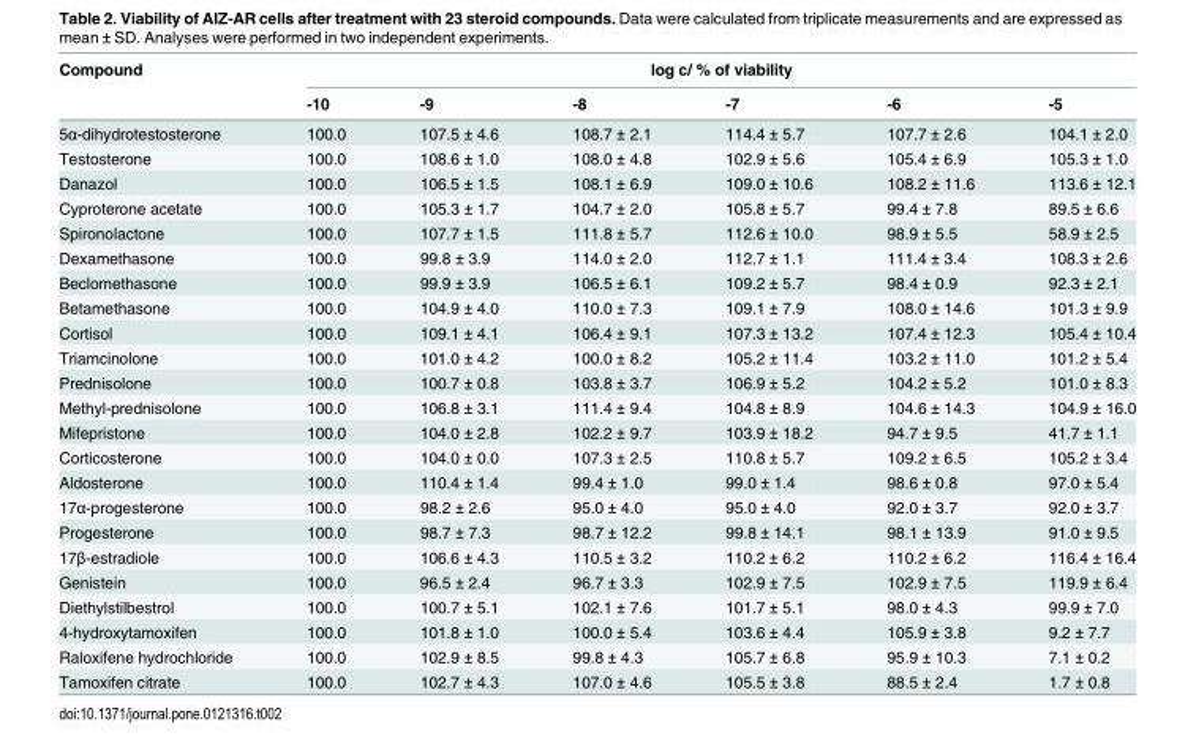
<table><thead><tr><td rowspan="2">Compound</td><td colspan="6">log c/ % of viability</td></tr><tr><td>-10</td><td>-9</td><td>-8</td><td>-7</td><td>-6</td><td>-5</td></tr></thead><tbody><tr><td>5α-dihydrotestosterone</td><td>100.0</td><td>107.5 ± 4.6</td><td>108.7 ± 2.1</td><td>114.4 ± 5.7</td><td>107.7 ± 2.6</td><td>104.1 ± 2.0</td></tr><tr><td>Testosterone</td><td>100.0</td><td>108.6 ± 1.0</td><td>108.0 ± 4.8</td><td>102.9 ± 5.6</td><td>105.4 ± 6.9</td><td>105.3 ± 1.0</td></tr><tr><td>Danazol</td><td>100.0</td><td>106.5 ± 1.5</td><td>108.1 ± 6.9</td><td>109.0 ± 10.6</td><td>108.2 ± 11.6</td><td>113.6 ± 12.1</td></tr><tr><td>Cyproterone acetate</td><td>100.0</td><td>105.3 ± 1.7</td><td>104.7 ± 2.0</td><td>105.8 ± 5.7</td><td>99.4 ± 7.8</td><td>89.5 ± 6.6</td></tr><tr><td>Spironolactone</td><td>100.0</td><td>107.7 ± 1.5</td><td>111.8 ± 5.7</td><td>112.6 ± 10.0</td><td>98.9 ± 5.5</td><td>58.9 ± 2.5</td></tr><tr><td>Dexamethasone</td><td>100.0</td><td>99.8 ± 3.9</td><td>114.0 ± 2.0</td><td>112.7 ± 1.1</td><td>111.4 ± 3.4</td><td>108.3 ± 2.6</td></tr><tr><td>Beclomethasone</td><td>100.0</td><td>99.9 ± 3.9</td><td>106.5 ± 6.1</td><td>109.2 ± 5.7</td><td>98.4 ± 0.9</td><td>92.3 ± 2.1</td></tr><tr><td>Betamethasone</td><td>100.0</td><td>104.9 ± 4.0</td><td>110.0 ± 7.3</td><td>109.1 ± 7.9</td><td>108.0 ± 14.6</td><td>101.3 ± 9.9</td></tr><tr><td>Cortisol</td><td>100.0</td><td>109.1 ± 4.1</td><td>106.4 ± 9.1</td><td>107.3 ± 13.2</td><td>107.4 ± 12.3</td><td>105.4 ± 10.4</td></tr><tr><td>Triamcinolone</td><td>100.0</td><td>101.0 ± 4.2</td><td>100.0 ± 8.2</td><td>105.2 ± 11.4</td><td>103.2 ± 11.0</td><td>101.2 ± 5.4</td></tr><tr><td>Prednisolone</td><td>100.0</td><td>100.7 ± 0.8</td><td>103.8 ± 3.7</td><td>106.9 ± 5.2</td><td>104.2 ± 5.2</td><td>101.0 ± 8.3</td></tr><tr><td>Methyl-prednisolone</td><td>100.0</td><td>106.8 ± 3.1</td><td>111.4 ± 9.4</td><td>104.8 ± 8.9</td><td>104.6 ± 14.3</td><td>104.9 ± 16.0</td></tr><tr><td>Mifepristone</td><td>100.0</td><td>104.0 ± 2.8</td><td>102.2 ± 9.7</td><td>103.9 ± 18.2</td><td>94.7 ± 9.5</td><td>41.7 ± 1.1</td></tr><tr><td>Corticosterone</td><td>100.0</td><td>104.0 ± 0.0</td><td>107.3 ± 2.5</td><td>110.8 ± 5.7</td><td>109.2 ± 6.5</td><td>105.2 ± 3.4</td></tr><tr><td>Aldosterone</td><td>100.0</td><td>110.4 ± 1.4</td><td>99.4 ± 1.0</td><td>99.0 ± 1.4</td><td>98.6 ± 0.8</td><td>97.0 ± 5.4</td></tr><tr><td>17α-progesterone</td><td>100.0</td><td>98.2 ± 2.6</td><td>95.0 ± 4.0</td><td>95.0 ± 4.0</td><td>92.0 ± 3.7</td><td>92.0 ± 3.7</td></tr><tr><td>Progesterone</td><td>100.0</td><td>98.7 ± 7.3</td><td>98.7 ± 12.2</td><td>99.8 ± 14.1</td><td>98.1 ± 13.9</td><td>91.0 ± 9.5</td></tr><tr><td>17β-estradiole</td><td>100.0</td><td>106.6 ± 4.3</td><td>110.5 ± 3.2</td><td>110.2 ± 6.2</td><td>110.2 ± 6.2</td><td>116.4 ± 16.4</td></tr><tr><td>Genistein</td><td>100.0</td><td>96.5 ± 2.4</td><td>96.7 ± 3.3</td><td>102.9 ± 7.5</td><td>102.9 ± 7.5</td><td>119.9 ± 6.4</td></tr><tr><td>Diethylstilbestrol</td><td>100.0</td><td>100.7 ± 5.1</td><td>102.1 ± 7.6</td><td>101.7 ± 5.1</td><td>98.0 ± 4.3</td><td>99.9 ± 7.0</td></tr><tr><td>4-hydroxytamoxifen</td><td>100.0</td><td>101.8 ± 1.0</td><td>100.0 ± 5.4</td><td>103.6 ± 4.4</td><td>105.9 ± 3.8</td><td>9.2 ± 7.7</td></tr><tr><td>Raloxifene hydrochloride</td><td>100.0</td><td>102.9 ± 8.5</td><td>99.8 ± 4.3</td><td>105.7 ± 6.8</td><td>95.9 ± 10.3</td><td>7.1 ± 0.2</td></tr><tr><td>Tamoxifen citrate</td><td>100.0</td><td>102.7 ± 4.3</td><td>107.0 ± 4.6</td><td>105.5 ± 3.8</td><td>88.5 ± 2.4</td><td>1.7 ± 0.8</td></tr></tbody></table>